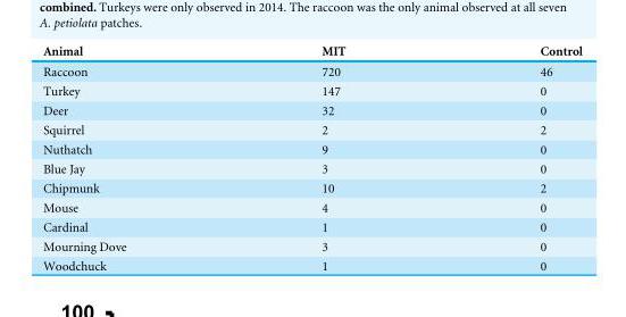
<table><thead><tr><td>Animal</td><td>MIT</td><td>Control</td></tr></thead><tbody><tr><td>Raccoon</td><td>720</td><td>46</td></tr><tr><td>Turkey</td><td>147</td><td>0</td></tr><tr><td>Deer</td><td>32</td><td>0</td></tr><tr><td>Squirrel</td><td>2</td><td>2</td></tr><tr><td>Nuthatch</td><td>9</td><td>0</td></tr><tr><td>Blue Jay</td><td>3</td><td>0</td></tr><tr><td>Chipmunk</td><td>10</td><td>2</td></tr><tr><td>Mouse</td><td>4</td><td>0</td></tr><tr><td>Cardinal</td><td>1</td><td>0</td></tr><tr><td>Mourning Dove</td><td>3</td><td>0</td></tr><tr><td>Woodchuck</td><td>1</td><td>0</td></tr></tbody></table>